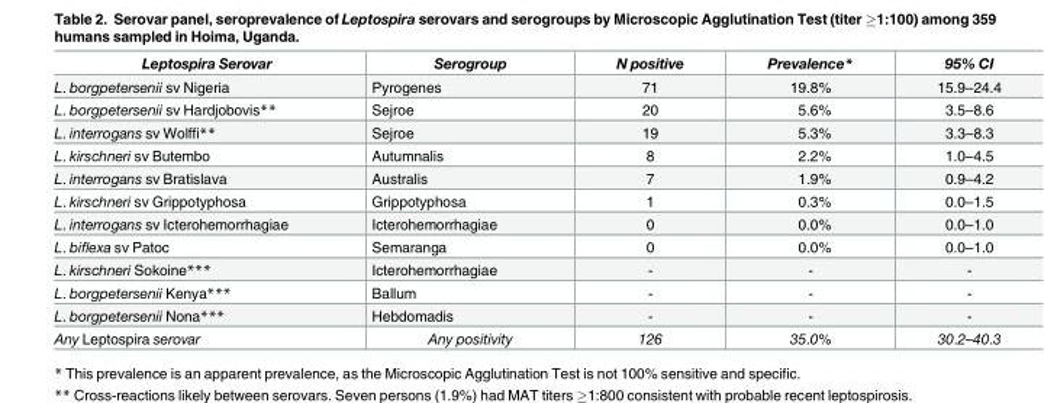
<table><thead><tr><td>Leptospira Serovar</td><td>Serogroup</td><td>N positive</td><td>Prevalence*</td><td>95% CI</td></tr></thead><tbody><tr><td>L. borgpetersenii sv Nigeria</td><td>Pyrogenes</td><td>71</td><td>19.8%</td><td>15.9–24.4</td></tr><tr><td>L. borgpetersenii sv Hardjobovis**</td><td>Sejroe</td><td>20</td><td>5.6%</td><td>3.5–8.6</td></tr><tr><td>L. interrogans sv Wolffi**</td><td>Sejroe</td><td>19</td><td>5.3%</td><td>3.3–8.3</td></tr><tr><td>L. kirschneri sv Butembo</td><td>Autumnalis</td><td>8</td><td>2.2%</td><td>1.0–4.5</td></tr><tr><td>L. interrogans sv Bratislava</td><td>Australis</td><td>7</td><td>1.9%</td><td>0.9–4.2</td></tr><tr><td>L. kirschneri sv Grippotyphosa</td><td>Grippotyphosa</td><td>1</td><td>0.3%</td><td>0.0–1.5</td></tr><tr><td>L. interrogans sv Icterohemorrhagiae</td><td>Icterohemorrhagiae</td><td>0</td><td>0.0%</td><td>0.0–1.0</td></tr><tr><td>L. biflexa sv Patoc</td><td>Semaranga</td><td>0</td><td>0.0%</td><td>0.0–1.0</td></tr><tr><td>L. kirschneri Sokoine***</td><td>Icterohemorrhagiae</td><td>-</td><td>-</td><td>-</td></tr><tr><td>L. borgpetersenii Kenya***</td><td>Ballum</td><td>-</td><td>-</td><td>-</td></tr><tr><td>L. borgpetersenii Nona***</td><td>Hebdomadis</td><td>-</td><td>-</td><td>-</td></tr><tr><td>Any Leptospira serovar</td><td>Any positivity</td><td>126</td><td>35.0%</td><td>30.2–40.3</td></tr></tbody></table>